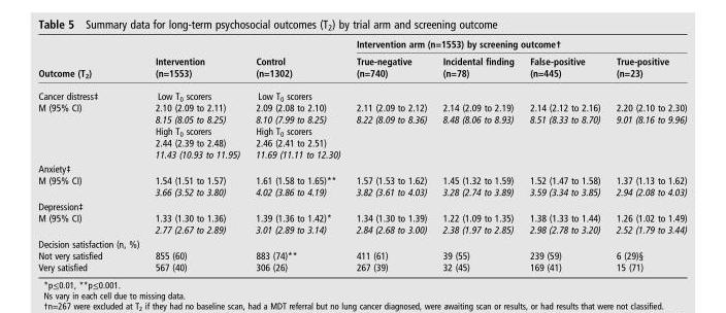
<table><thead><tr><td rowspan="2">Outcome (T<sub>2</sub>)</td><td rowspan="2">Intervention (n=1553)</td><td rowspan="2">Control (n=1302)</td><td colspan="4">Intervention arm (n=1553) by screening outcome†</td></tr><tr><td>True-negative (n=740)</td><td>Incidental finding (n=78)</td><td>False-positive (n=445)</td><td>True-positive (n=23)</td></tr></thead><tbody><tr><td rowspan="2">Cancer distress‡ M (95% CI)</td><td>Low T<sub>0</sub> scorers 2.10 (2.09 to 2.11) 8.15 (8.05 to 8.25)</td><td>Low T<sub>0</sub> scorers 2.09 (2.08 to 2.10) 8.10 (7.99 to 8.25)</td><td rowspan="2">2.11 (2.09 to 2.12) 8.22 (8.09 to 8.36)</td><td rowspan="2">2.14 (2.09 to 2.19) 8.48 (8.06 to 8.93)</td><td rowspan="2">2.14 (2.12 to 2.16) 8.51 (8.33 to 8.70)</td><td rowspan="2">2.20 (2.10 to 2.30) 9.01 (8.16 to 9.96)</td></tr><tr><td>High T<sub>0</sub> scorers 2.44 (2.39 to 2.48) 11.43 (10.93 to 11.95)</td><td>High T<sub>0</sub> scorers 2.46 (2.41 to 2.51) 11.69 (11.11 to 12.30)</td></tr><tr><td>Anxiety‡ M (95% CI)</td><td>1.54 (1.51 to 1.57) 3.66 (3.52 to 3.80)</td><td>1.61 (1.58 to 1.65)** 4.02 (3.86 to 4.19)</td><td>1.57 (1.53 to 1.62) 3.82 (3.61 to 4.03)</td><td>1.45 (1.32 to 1.59) 3.28 (2.74 to 3.89)</td><td>1.52 (1.47 to 1.58) 3.59 (3.34 to 3.85)</td><td>1.37 (1.13 to 1.62) 2.94 (2.08 to 4.03)</td></tr><tr><td>Depression‡ M (95% CI)</td><td>1.33 (1.30 to 1.36) 2.77 (2.67 to 2.89)</td><td>1.39 (1.36 to 1.42)* 3.01 (2.89 to 3.14)</td><td>1.34 (1.30 to 1.39) 2.84 (2.68 to 3.00)</td><td>1.22 (1.09 to 1.35) 2.38 (1.97 to 2.85)</td><td>1.38 (1.33 to 1.44) 2.98 (2.78 to 3.20)</td><td>1.26 (1.02 to 1.49) 2.52 (1.79 to 3.44)</td></tr><tr><td>Decision satisfaction (n, %) Not very satisfied Very satisfied</td><td>855 (60) 567 (40)</td><td>883 (74)** 306 (26)</td><td>411 (61) 267 (39)</td><td>39 (55) 32 (45)</td><td>239 (59) 169 (41)</td><td>6 (29)§ 15 (71)</td></tr></tbody></table>